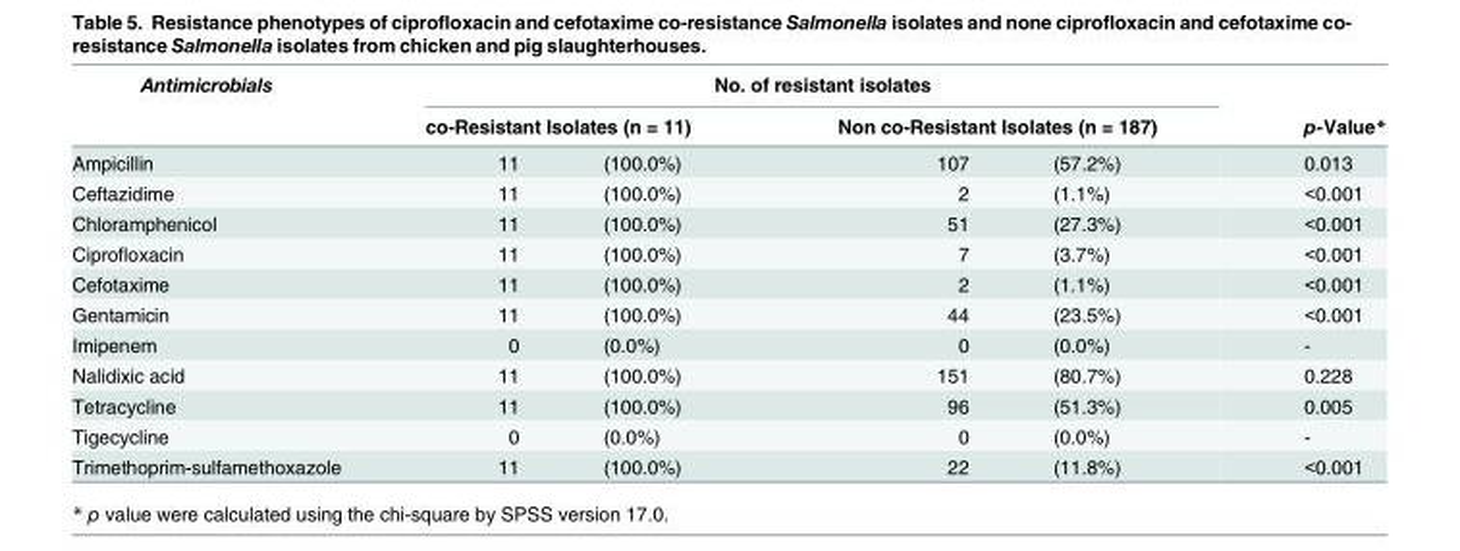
<table><thead><tr><td rowspan="3">Antimicrobials Ampicillin</td><td colspan="4">No. of resistant isolates</td><td rowspan="3">p-Value* 0.013</td></tr><tr><td colspan="2">co-Resistant Isolates (n = 11)</td><td colspan="2">Non co-Resistant Isolates (n = 187)</td></tr><tr><td>11</td><td>(100.0%)</td><td>107</td><td>(57.2%)</td></tr></thead><tbody><tr><td>Ceftazidime</td><td>11</td><td>(100.0%)</td><td>2</td><td>(1.1%)</td><td>&lt;0.001</td></tr><tr><td>Chloramphenicol</td><td>11</td><td>(100.0%)</td><td>51</td><td>(27.3%)</td><td>&lt;0.001</td></tr><tr><td>Ciprofloxacin</td><td>11</td><td>(100.0%)</td><td>7</td><td>(3.7%)</td><td>&lt;0.001</td></tr><tr><td>Cefotaxime</td><td>11</td><td>(100.0%)</td><td>2</td><td>(1.1%)</td><td>&lt;0.001</td></tr><tr><td>Gentamicin</td><td>11</td><td>(100.0%)</td><td>44</td><td>(23.5%)</td><td>&lt;0.001</td></tr><tr><td>Imipenem</td><td>0</td><td>(0.0%)</td><td>0</td><td>(0.0%)</td><td>-</td></tr><tr><td>Nalidixic acid</td><td>11</td><td>(100.0%)</td><td>151</td><td>(80.7%)</td><td>0.228</td></tr><tr><td>Tetracycline</td><td>11</td><td>(100.0%)</td><td>96</td><td>(51.3%)</td><td>0.005</td></tr><tr><td>Tigecycline</td><td>0</td><td>(0.0%)</td><td>0</td><td>(0.0%)</td><td>-</td></tr><tr><td>Trimethoprim-sulfamethoxazole</td><td>11</td><td>(100.0%)</td><td>22</td><td>(11.8%)</td><td>&lt;0.001</td></tr></tbody></table>